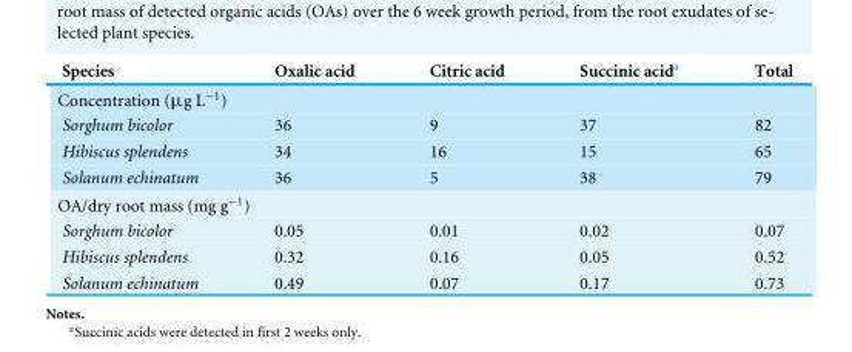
<table><thead><tr><td>Species</td><td>Oxalic acid</td><td>Citric acid</td><td>Succinic acid<sup>a</sup></td><td>Total</td></tr></thead><tbody><tr><td colspan="5">;Concentration (µg L−1)</td></tr><tr><td>;Sorghum bicolor</td><td>36</td><td>9</td><td>37</td><td>82</td></tr><tr><td>;Hibiscus splendens</td><td>34</td><td>16</td><td>15</td><td>65</td></tr><tr><td>;Solanum echinatum</td><td>36</td><td>5</td><td>38</td><td>79</td></tr><tr><td colspan="5">;OA/dry root mass (mg g−1)</td></tr><tr><td>;Sorghum bicolor</td><td>0.05</td><td>0.01</td><td>0.02</td><td>0.07</td></tr><tr><td>;Hibiscus splendens</td><td>0.32</td><td>0.16</td><td>0.05</td><td>0.52</td></tr><tr><td>;Solanum echinatum</td><td>0.49</td><td>0.07</td><td>0.17</td><td>0.73</td></tr></tbody></table>